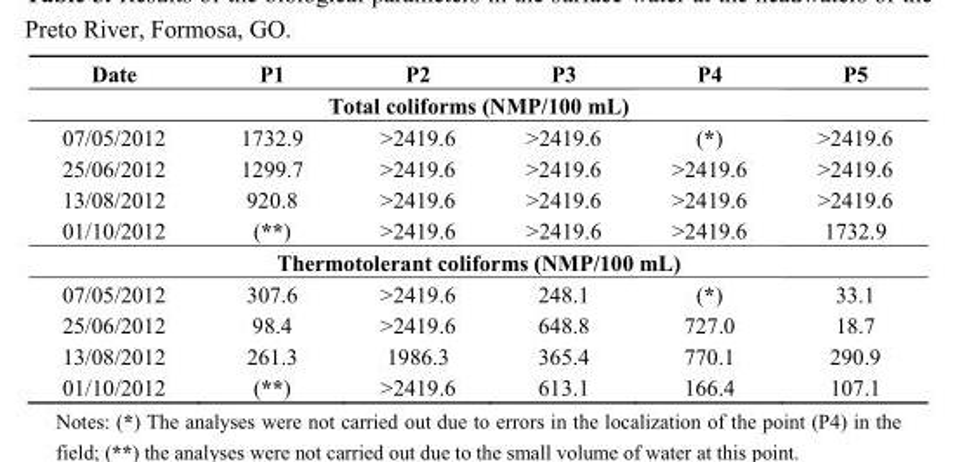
<table><thead><tr><td>Date</td><td>P1</td><td>P2</td><td>P3</td><td>P4</td><td>P5</td></tr></thead><tbody><tr><td colspan="6">Total coliforms (NMP/100 mL)</td></tr><tr><td>07/05/2012</td><td>1732.9</td><td>&gt;2419.6</td><td>&gt;2419.6</td><td>(*)</td><td>&gt;2419.6</td></tr><tr><td>25/06/2012</td><td>1299.7</td><td>&gt;2419.6</td><td>&gt;2419.6</td><td>&gt;2419.6</td><td>&gt;2419.6</td></tr><tr><td>13/08/2012</td><td>920.8</td><td>&gt;2419.6</td><td>&gt;2419.6</td><td>&gt;2419.6</td><td>&gt;2419.6</td></tr><tr><td>01/10/2012</td><td>(**)</td><td>&gt;2419.6</td><td>&gt;2419.6</td><td>&gt;2419.6</td><td>1732.9</td></tr><tr><td colspan="6">Thermotolerant coliforms (NMP/100 mL)</td></tr><tr><td>07/05/2012</td><td>307.6</td><td>&gt;2419.6</td><td>248.1</td><td>(*)</td><td>33.1</td></tr><tr><td>25/06/2012</td><td>98.4</td><td>&gt;2419.6</td><td>648.8</td><td>727.0</td><td>18.7</td></tr><tr><td>13/08/2012</td><td>261.3</td><td>1986.3</td><td>365.4</td><td>770.1</td><td>290.9</td></tr><tr><td>01/10/2012</td><td>(**)</td><td>&gt;2419.6</td><td>613.1</td><td>166.4</td><td>107.1</td></tr></tbody></table>